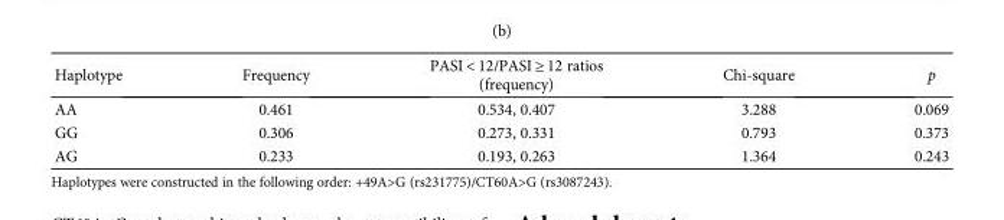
<table><thead><tr><td>Haplotype</td><td>Frequency</td><td>PASI &lt; 12/PASI ≥ 12 ratios (frequency)</td><td>Chi-square</td><td>p</td></tr></thead><tbody><tr><td>AA</td><td>0.461</td><td>0.534, 0.407</td><td>3.288</td><td>0.069</td></tr><tr><td>GG</td><td>0.306</td><td>0.273, 0.331</td><td>0.793</td><td>0.373</td></tr><tr><td>AG</td><td>0.233</td><td>0.193, 0.263</td><td>1.364</td><td>0.243</td></tr></tbody></table>